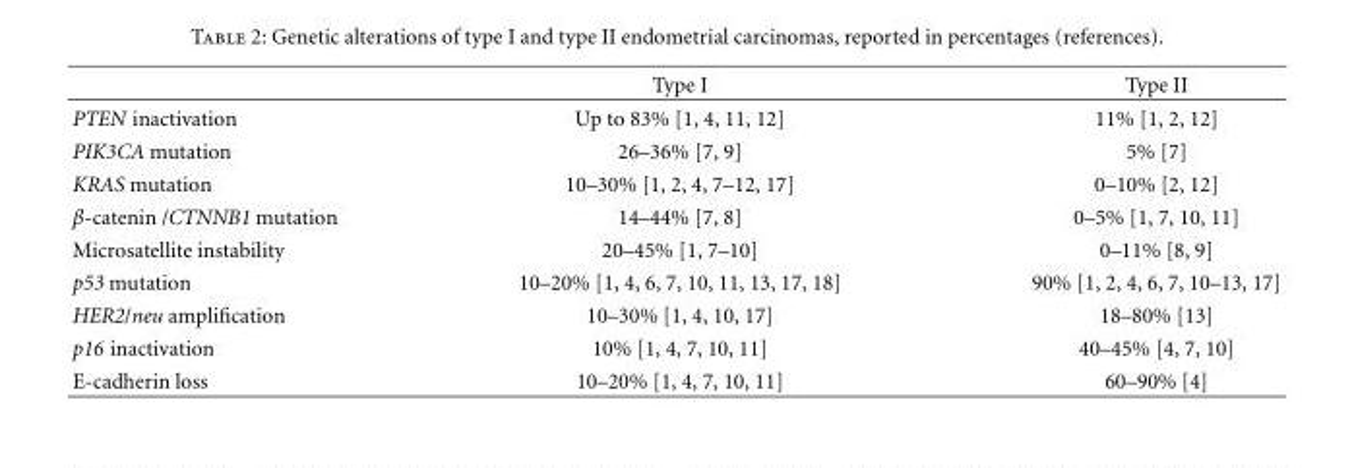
<table><thead><tr><td></td><td>Type I</td><td>Type II</td></tr></thead><tbody><tr><td>PTEN inactivation</td><td>Up to 83% [1, 4, 11, 12]</td><td>11% [1, 2, 12]</td></tr><tr><td>PIK3CA mutation</td><td>26–36% [7, 9]</td><td>5% [7]</td></tr><tr><td>KRAS mutation</td><td>10–30% [1, 2, 4, 7–12, 17]</td><td>0–10% [2, 12]</td></tr><tr><td>β-catenin /CTNNB1 mutation</td><td>14–44% [7, 8]</td><td>0–5% [1, 7, 10, 11]</td></tr><tr><td>Microsatellite instability</td><td>20–45% [1, 7–10]</td><td>0–11% [8, 9]</td></tr><tr><td>p53 mutation</td><td>10–20% [1, 4, 6, 7, 10, 11, 13, 17, 18]</td><td>90% [1, 2, 4, 6, 7, 10–13, 17]</td></tr><tr><td>HER2/neu amplification</td><td>10–30% [1, 4, 10, 17]</td><td>18–80% [13]</td></tr><tr><td>p16 inactivation</td><td>10% [1, 4, 7, 10, 11]</td><td>40–45% [4, 7, 10]</td></tr><tr><td>E-cadherin loss</td><td>10–20% [1, 4, 7, 10, 11]</td><td>60–90% [4]</td></tr></tbody></table>